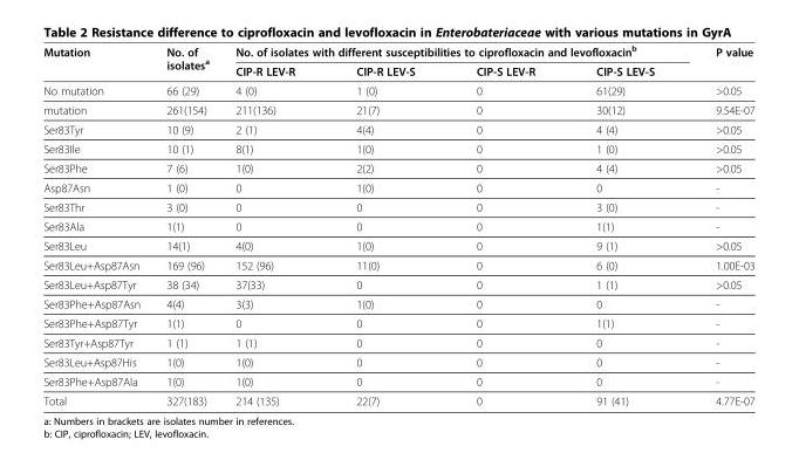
<table><thead><tr><td rowspan="2">Mutation</td><td rowspan="2">No. of isolates<sup>a</sup></td><td colspan="4">No. of isolates with different susceptibilities to ciprofloxacin and levofloxacin<sup>b</sup></td><td rowspan="2">P value</td></tr><tr><td>CIP-R LEV-R</td><td>CIP-R LEV-S</td><td>CIP-S LEV-R</td><td>CIP-S LEV-S</td></tr></thead><tbody><tr><td>No mutation</td><td>66 (29)</td><td>4 (0)</td><td>1 (0)</td><td>0</td><td>61(29)</td><td>&gt;0.05</td></tr><tr><td>mutation</td><td>261(154)</td><td>211(136)</td><td>21(7)</td><td>0</td><td>30(12)</td><td>9.54E-07</td></tr><tr><td>Ser83Tyr</td><td>10 (9)</td><td>2 (1)</td><td>4(4)</td><td>0</td><td>4 (4)</td><td>&gt;0.05</td></tr><tr><td>Ser83Ile</td><td>10 (1)</td><td>8(1)</td><td>1(0)</td><td>0</td><td>1 (0)</td><td>&gt;0.05</td></tr><tr><td>Ser83Phe</td><td>7 (6)</td><td>1(0)</td><td>2(2)</td><td>0</td><td>4 (4)</td><td>&gt;0.05</td></tr><tr><td>Asp87Asn</td><td>1 (0)</td><td>0</td><td>1(0)</td><td>0</td><td>0</td><td>-</td></tr><tr><td>Ser83Thr</td><td>3 (0)</td><td>0</td><td>0</td><td>0</td><td>3 (0)</td><td>-</td></tr><tr><td>Ser83Ala</td><td>1(1)</td><td>0</td><td>0</td><td>0</td><td>1(1)</td><td>-</td></tr><tr><td>Ser83Leu</td><td>14(1)</td><td>4(0)</td><td>1(0)</td><td>0</td><td>9 (1)</td><td>&gt;0.05</td></tr><tr><td>Ser83Leu+Asp87Asn</td><td>169 (96)</td><td>152 (96)</td><td>11(0)</td><td>0</td><td>6 (0)</td><td>1.00E-03</td></tr><tr><td>Ser83Leu+Asp87Tyr</td><td>38 (34)</td><td>37(33)</td><td>0</td><td>0</td><td>1 (1)</td><td>&gt;0.05</td></tr><tr><td>Ser83Phe+Asp87Asn</td><td>4(4)</td><td>3(3)</td><td>1(0)</td><td>0</td><td>0</td><td>-</td></tr><tr><td>Ser83Phe+Asp87Tyr</td><td>1(1)</td><td>0</td><td>0</td><td>0</td><td>1(1)</td><td>-</td></tr><tr><td>Ser83Tyr+Asp87Tyr</td><td>1 (1)</td><td>1 (1)</td><td>0</td><td>0</td><td>0</td><td>-</td></tr><tr><td>Ser83Leu+Asp87His</td><td>1(0)</td><td>1(0)</td><td>0</td><td>0</td><td>0</td><td>-</td></tr><tr><td>Ser83Phe+Asp87Ala</td><td>1(0)</td><td>1(0)</td><td>0</td><td>0</td><td>0</td><td>-</td></tr><tr><td>Total</td><td>327(183)</td><td>214 (135)</td><td>22(7)</td><td>0</td><td>91 (41)</td><td>4.77E-07</td></tr></tbody></table>